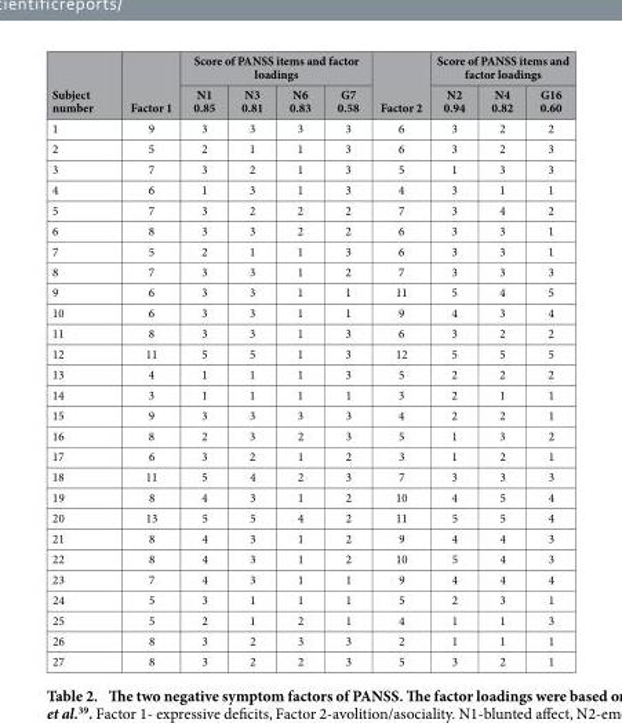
<table><thead><tr><td rowspan="2">Subject number</td><td rowspan="2">Factor 1</td><td colspan="4">Score of PANSS items and factor loadings</td><td rowspan="2">Factor 2</td><td colspan="3">Score of PANSS items and factor loadings</td></tr><tr><td>N1 0.85</td><td>N3 0.81</td><td>N6 0.83</td><td>G7 0.58</td><td>N2 0.94</td><td>N4 0.82</td><td>G16 0.60</td></tr></thead><tbody><tr><td>1</td><td>9</td><td>3</td><td>3</td><td>3</td><td>3</td><td>6</td><td>3</td><td>2</td><td>2</td></tr><tr><td>2</td><td>5</td><td>2</td><td>1</td><td>1</td><td>3</td><td>6</td><td>3</td><td>2</td><td>3</td></tr><tr><td>3</td><td>7</td><td>3</td><td>2</td><td>1</td><td>3</td><td>5</td><td>1</td><td>3</td><td>3</td></tr><tr><td>4</td><td>6</td><td>1</td><td>3</td><td>1</td><td>3</td><td>4</td><td>3</td><td>1</td><td>1</td></tr><tr><td>5</td><td>7</td><td>3</td><td>2</td><td>2</td><td>2</td><td>7</td><td>3</td><td>4</td><td>2</td></tr><tr><td>6</td><td>8</td><td>3</td><td>3</td><td>2</td><td>2</td><td>6</td><td>3</td><td>3</td><td>1</td></tr><tr><td>7</td><td>5</td><td>2</td><td>1</td><td>1</td><td>3</td><td>6</td><td>3</td><td>3</td><td>1</td></tr><tr><td>8</td><td>7</td><td>3</td><td>3</td><td>1</td><td>2</td><td>7</td><td>3</td><td>3</td><td>3</td></tr><tr><td>9</td><td>6</td><td>3</td><td>3</td><td>1</td><td>1</td><td>11</td><td>5</td><td>4</td><td>5</td></tr><tr><td>10</td><td>6</td><td>3</td><td>3</td><td>1</td><td>1</td><td>9</td><td>4</td><td>3</td><td>4</td></tr><tr><td>11</td><td>8</td><td>3</td><td>3</td><td>1</td><td>3</td><td>6</td><td>3</td><td>2</td><td>2</td></tr><tr><td>12</td><td>11</td><td>5</td><td>5</td><td>1</td><td>3</td><td>12</td><td>5</td><td>5</td><td>5</td></tr><tr><td>13</td><td>4</td><td>1</td><td>1</td><td>1</td><td>3</td><td>5</td><td>2</td><td>2</td><td>2</td></tr><tr><td>14</td><td>3</td><td>1</td><td>1</td><td>1</td><td>1</td><td>3</td><td>2</td><td>1</td><td>1</td></tr><tr><td>15</td><td>9</td><td>3</td><td>3</td><td>3</td><td>3</td><td>4</td><td>2</td><td>2</td><td>1</td></tr><tr><td>16</td><td>8</td><td>2</td><td>3</td><td>2</td><td>3</td><td>5</td><td>1</td><td>3</td><td>2</td></tr><tr><td>17</td><td>6</td><td>3</td><td>2</td><td>1</td><td>2</td><td>3</td><td>1</td><td>2</td><td>1</td></tr><tr><td>18</td><td>11</td><td>5</td><td>4</td><td>2</td><td>3</td><td>7</td><td>3</td><td>3</td><td>3</td></tr><tr><td>19</td><td>8</td><td>4</td><td>3</td><td>1</td><td>2</td><td>10</td><td>4</td><td>5</td><td>4</td></tr><tr><td>20</td><td>13</td><td>5</td><td>5</td><td>4</td><td>2</td><td>11</td><td>5</td><td>5</td><td>4</td></tr><tr><td>21</td><td>8</td><td>4</td><td>3</td><td>1</td><td>2</td><td>9</td><td>4</td><td>4</td><td>3</td></tr><tr><td>22</td><td>8</td><td>4</td><td>3</td><td>1</td><td>2</td><td>10</td><td>5</td><td>4</td><td>3</td></tr><tr><td>23</td><td>7</td><td>4</td><td>3</td><td>1</td><td>1</td><td>9</td><td>4</td><td>4</td><td>4</td></tr><tr><td>24</td><td>5</td><td>3</td><td>1</td><td>1</td><td>1</td><td>5</td><td>2</td><td>3</td><td>1</td></tr><tr><td>25</td><td>5</td><td>2</td><td>1</td><td>2</td><td>1</td><td>4</td><td>1</td><td>1</td><td>3</td></tr><tr><td>26</td><td>8</td><td>3</td><td>2</td><td>3</td><td>3</td><td>2</td><td>1</td><td>1</td><td>1</td></tr><tr><td>27</td><td>8</td><td>3</td><td>2</td><td>2</td><td>3</td><td>5</td><td>3</td><td>2</td><td>1</td></tr></tbody></table>